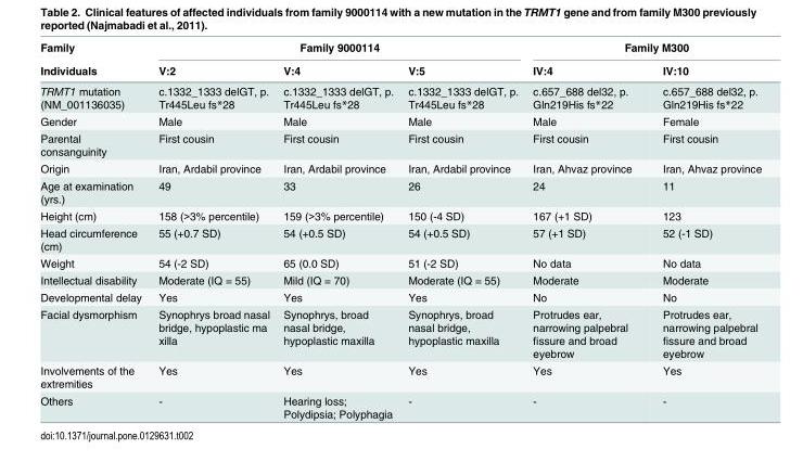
<table><thead><tr><td rowspan="2">Family Individuals</td><td colspan="3">Family 9000114</td><td colspan="2">Family M300</td></tr><tr><td>V:2</td><td>V:4</td><td>V:5</td><td>IV:4</td><td>IV:10</td></tr></thead><tbody><tr><td>TRMT1 mutation (NM_001136035)</td><td>c.1332_1333 delGT, p. Tr445Leu fs*28</td><td>c.1332_1333 delGT, p. Tr445Leu fs*28</td><td>c.1332_1333 delGT, p. Tr445Leu fs*28</td><td>c.657_688 del32, p. Gln219His fs*22</td><td>c.657_688 del32, p. Gln219His fs*22</td></tr><tr><td>Gender</td><td>Male</td><td>Male</td><td>Male</td><td>Male</td><td>Female</td></tr><tr><td>Parental consanguinity</td><td>First cousin</td><td>First cousin</td><td>First cousin</td><td>First cousin</td><td>First cousin</td></tr><tr><td>Origin</td><td>Iran, Ardabil province</td><td>Iran, Ardabil province</td><td>Iran, Ardabil province</td><td>Iran, Ahvaz province</td><td>Iran, Ahvaz province</td></tr><tr><td>Age at examination (yrs.)</td><td>49</td><td>33</td><td>26</td><td>24</td><td>11</td></tr><tr><td>Height (cm)</td><td>158 (&gt;3% percentile)</td><td>159 (&gt;3% percentile)</td><td>150 (-4 SD)</td><td>167 (+1 SD)</td><td>123</td></tr><tr><td>Head circumference (cm)</td><td>55 (+0.7 SD)</td><td>54 (+0.5 SD)</td><td>54 (+0.5 SD)</td><td>57 (+1 SD)</td><td>52 (-1 SD)</td></tr><tr><td>Weight</td><td>54 (-2 SD)</td><td>65 (0.0 SD)</td><td>51 (-2 SD)</td><td>No data</td><td>No data</td></tr><tr><td>Intellectual disability</td><td>Moderate (IQ = 55)</td><td>Mild (IQ = 70)</td><td>Moderate (IQ = 55)</td><td>Moderate</td><td>Moderate</td></tr><tr><td>Developmental delay</td><td>Yes</td><td>Yes</td><td>Yes</td><td>No</td><td>No</td></tr><tr><td>Facial dysmorphism</td><td>Synophrys broad nasal bridge, hypoplastic ma xilla</td><td>Synophrys, broad nasal bridge, hypoplastic maxilla</td><td>Synophrys, broad nasal bridge, hypoplastic maxilla</td><td>Protrudes ear, narrowing palpebral fissure and broad eyebrow</td><td>Protrudes ear, narrowing palpebral fissure and broad eyebrow</td></tr><tr><td>Involvements of the extremities</td><td>Yes</td><td>Yes</td><td>Yes</td><td>Yes</td><td>Yes</td></tr><tr><td>Others</td><td>-</td><td>Hearing loss; Polydipsia; Polyphagia</td><td>-</td><td>-</td><td>-</td></tr></tbody></table>